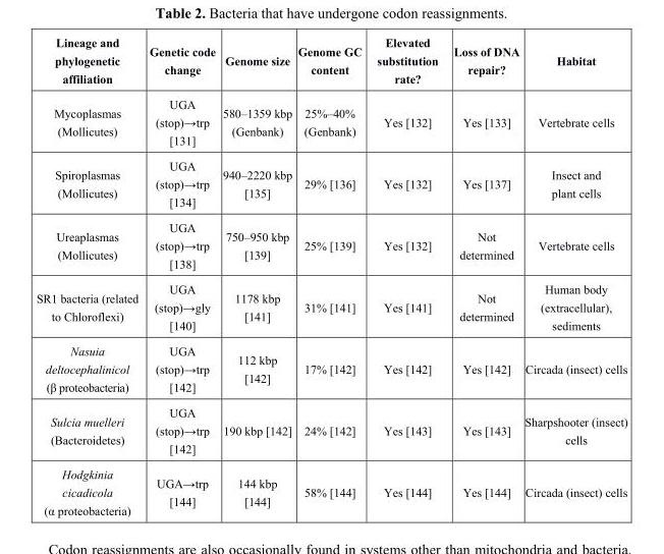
<table><thead><tr><td>Lineage and phylogenetic affiliation</td><td>Genetic code change</td><td>Genome size</td><td>Genome GC content</td><td>Elevated substitution rate?</td><td>Loss of DNA repair?</td><td>Habitat</td></tr></thead><tbody><tr><td>Mycoplasmas (Mollicutes)</td><td>UGA (stop)→trp [131]</td><td>580–1359 kbp (Genbank)</td><td>25%–40% (Genbank)</td><td>Yes [132]</td><td>Yes [133]</td><td>Vertebrate cells</td></tr><tr><td>Spiroplasmas (Mollicutes)</td><td>UGA (stop)→trp [134]</td><td>940–2220 kbp [135]</td><td>29% [136]</td><td>Yes [132]</td><td>Yes [137]</td><td>Insect and plant cells</td></tr><tr><td>Ureaplasmas (Mollicutes)</td><td>UGA (stop)→trp [138]</td><td>750–950 kbp [139]</td><td>25% [139]</td><td>Yes [132]</td><td>Not determined</td><td>Vertebrate cells</td></tr><tr><td>SR1 bacteria (related to Chloroflexi)</td><td>UGA (stop)→gly [140]</td><td>1178 kbp [141]</td><td>31% [141]</td><td>Yes [141]</td><td>Not determined</td><td>Human body (extracellular), sediments</td></tr><tr><td>Nasuia deltocephalinicol (β proteobacteria)</td><td>UGA (stop)→trp [142]</td><td>112 kbp [142]</td><td>17% [142]</td><td>Yes [142]</td><td>Yes [142]</td><td>Circada (insect) cells</td></tr><tr><td>Sulcia muelleri (Bacteroidetes)</td><td>UGA (stop)→trp [142]</td><td>190 kbp [142]</td><td>24% [142]</td><td>Yes [143]</td><td>Yes [143]</td><td>Sharpshooter (insect) cells</td></tr><tr><td>Hodgkinia cicadicola (α proteobacteria)</td><td>UGA→trp [144]</td><td>144 kbp [144]</td><td>58% [144]</td><td>Yes [144]</td><td>Yes [144]</td><td>Circada (insect) cells</td></tr></tbody></table>